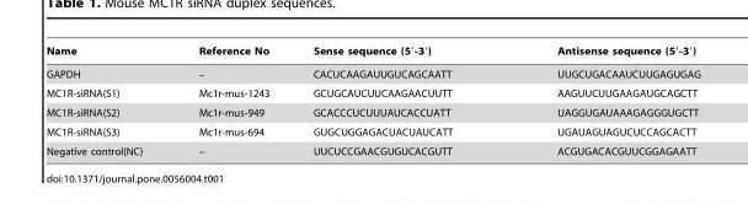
<table><thead><tr><td>Name</td><td>Reference No</td><td>Sense sequence (5′-3′)</td><td>Antisense sequence (5′-3′)</td></tr></thead><tbody><tr><td>GAPDH</td><td>–</td><td>CACUCAAGAUUGUCAGCAATT</td><td>UUGCUGACAAUCUUGAGUGAG</td></tr><tr><td>MC1R-siRNA(S1)</td><td>Mc1r-mus-1243</td><td>GCUGCAUCUUCAAGAACUUTT</td><td>AAGUUCUUGAAGAUGCAGCTT</td></tr><tr><td>MC1R-siRNA(S2)</td><td>Mc1r-mus-949</td><td>GCACCCUCUUUAUCACCUATT</td><td>UAGGUGAUAAAGAGGGUGCTT</td></tr><tr><td>MC1R-siRNA(S3)</td><td>Mc1r-mus-694</td><td>GUGCUGGAGACUACUAUCATT</td><td>UGAUAGUAGUCUCCAGCACTT</td></tr><tr><td>Negative control(NC)</td><td>–</td><td>UUCUCCGAACGUGUCACGUTT</td><td>ACGUGACACGUUCGGAGAATT</td></tr></tbody></table>